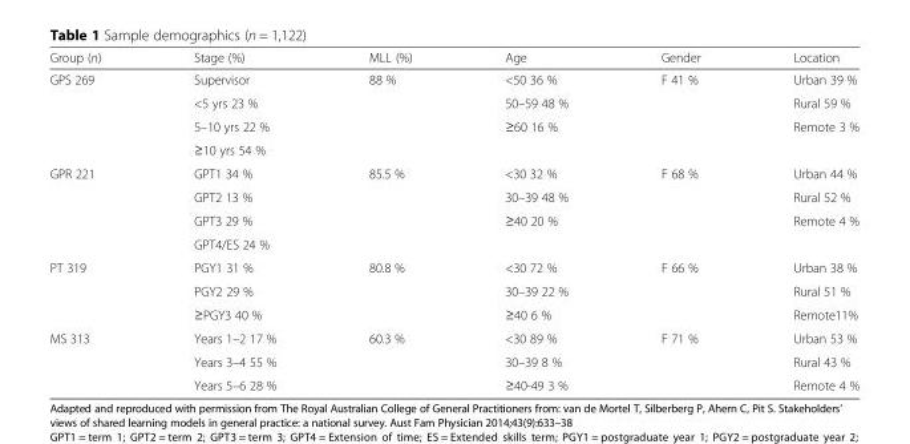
<table><thead><tr><td>Group (n)</td><td>Stage (%)</td><td>MLL (%)</td><td>Age</td><td>Gender</td><td>Location</td></tr></thead><tbody><tr><td rowspan="4">GPS 269</td><td>Supervisor</td><td>88 %</td><td>&lt;50 36 %</td><td>F 41 %</td><td>Urban 39 %</td></tr><tr><td>&lt;5 yrs 23 %</td><td></td><td>50–59 48 %</td><td></td><td>Rural 59 %</td></tr><tr><td>5–10 yrs 22 %</td><td></td><td>≥60 16 %</td><td></td><td>Remote 3 %</td></tr><tr><td>≥10 yrs 54 %</td><td></td><td></td><td></td><td></td></tr><tr><td rowspan="4">GPR 221</td><td>GPT1 34 %</td><td>85.5 %</td><td>&lt;30 32 %</td><td>F 68 %</td><td>Urban 44 %</td></tr><tr><td>GPT2 13 %</td><td></td><td>30–39 48 %</td><td></td><td>Rural 52 %</td></tr><tr><td>GPT3 29 %</td><td></td><td>≥40 20 %</td><td></td><td>Remote 4 %</td></tr><tr><td>GPT4/ES 24 %</td><td></td><td></td><td></td><td></td></tr><tr><td rowspan="3">PT 319</td><td>PGY1 31 %</td><td>80.8 %</td><td>&lt;30 72 %</td><td>F 66 %</td><td>Urban 38 %</td></tr><tr><td>PGY2 29 %</td><td></td><td>30–39 22 %</td><td></td><td>Rural 51 %</td></tr><tr><td>≥PGY3 40 %</td><td></td><td>≥40 6 %</td><td></td><td>Remote11%</td></tr><tr><td rowspan="3">MS 313</td><td>Years 1–2 17 %</td><td>60.3 %</td><td>&lt;30 89 %</td><td>F 71 %</td><td>Urban 53 %</td></tr><tr><td>Years 3–4 55 %</td><td></td><td>30–39 8 %</td><td></td><td>Rural 43 %</td></tr><tr><td>Years 5–6 28 %</td><td></td><td>≥40-49 3 %</td><td></td><td>Remote 4 %</td></tr></tbody></table>